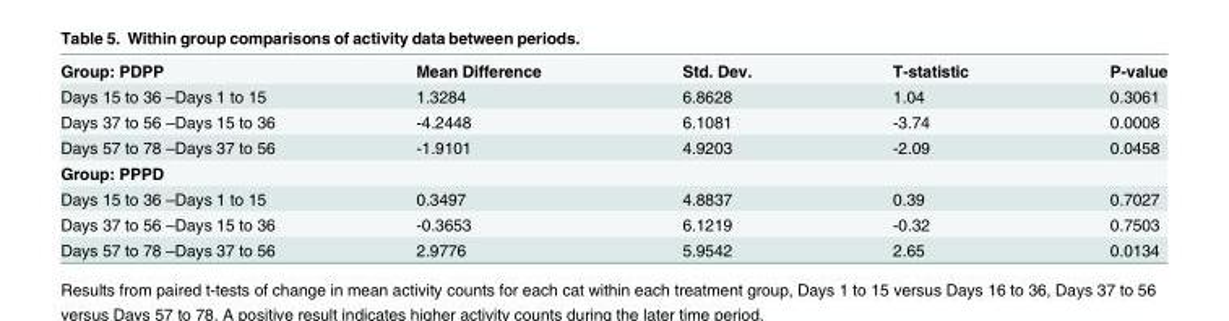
<table><tbody><tr><td>Group: PDPP</td><td>Mean Difference</td><td>Std. Dev.</td><td>T-statistic</td><td>P-value</td></tr><tr><td>Days 15 to 36 –Days 1 to 15</td><td>1.3284</td><td>6.8628</td><td>1.04</td><td>0.3061</td></tr><tr><td>Days 37 to 56 –Days 15 to 36</td><td>-4.2448</td><td>6.1081</td><td>-3.74</td><td>0.0008</td></tr><tr><td>Days 57 to 78 –Days 37 to 56</td><td>-1.9101</td><td>4.9203</td><td>-2.09</td><td>0.0458</td></tr><tr><td colspan="5">Group: PPPD</td></tr><tr><td>Days 15 to 36 –Days 1 to 15</td><td>0.3497</td><td>4.8837</td><td>0.39</td><td>0.7027</td></tr><tr><td>Days 37 to 56 –Days 15 to 36</td><td>-0.3653</td><td>6.1219</td><td>-0.32</td><td>0.7503</td></tr><tr><td>Days 57 to 78 –Days 37 to 56</td><td>2.9776</td><td>5.9542</td><td>2.65</td><td>0.0134</td></tr></tbody></table>